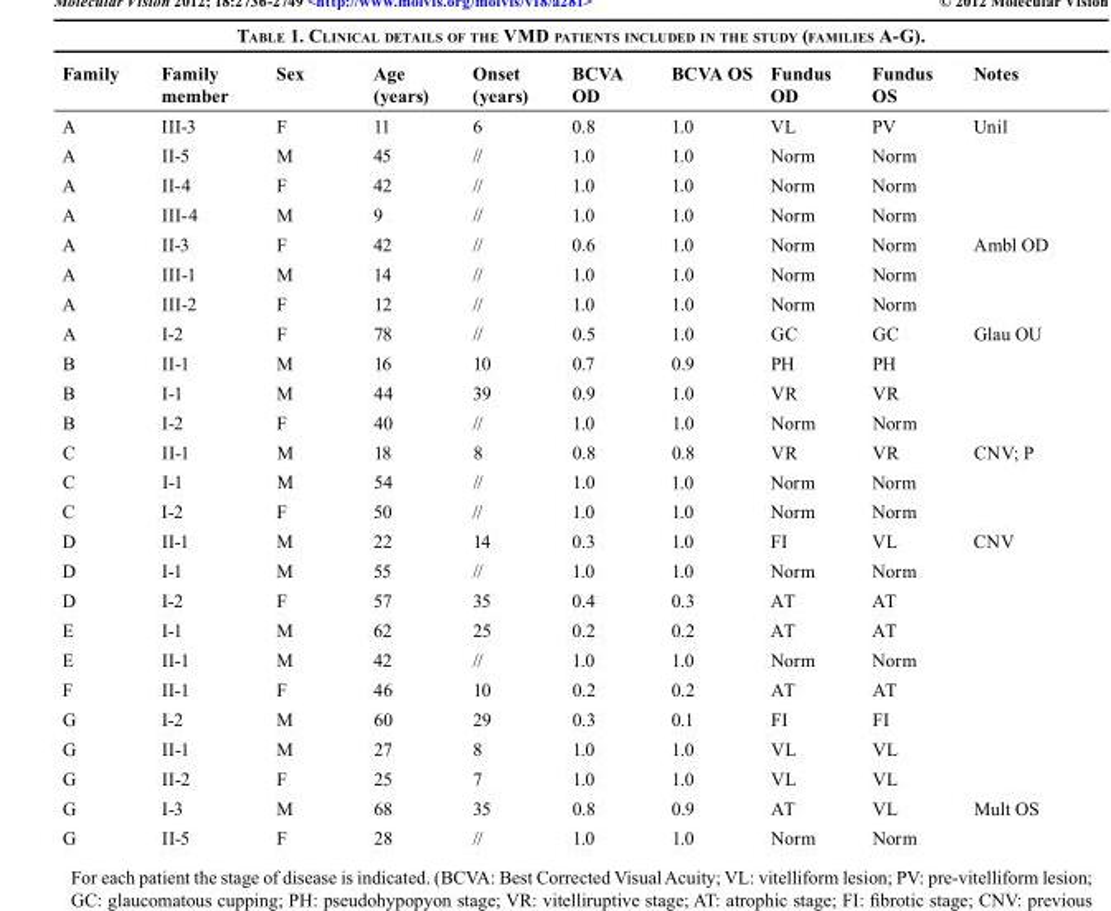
<table><thead><tr><td>Family</td><td>Family member</td><td>Sex</td><td>Age (years)</td><td>Onset (years)</td><td>BCVA OD</td><td>BCVA OS</td><td>Fundus OD</td><td>Fundus OS</td><td>Notes</td></tr></thead><tbody><tr><td>A</td><td>III-3</td><td>F</td><td>11</td><td>6</td><td>0.8</td><td>1.0</td><td>VL</td><td>PV</td><td>Unil</td></tr><tr><td>A</td><td>II-5</td><td>M</td><td>45</td><td>//</td><td>1.0</td><td>1.0</td><td>Norm</td><td>Norm</td><td></td></tr><tr><td>A</td><td>II-4</td><td>F</td><td>42</td><td>//</td><td>1.0</td><td>1.0</td><td>Norm</td><td>Norm</td><td></td></tr><tr><td>A</td><td>III-4</td><td>M</td><td>9</td><td>//</td><td>1.0</td><td>1.0</td><td>Norm</td><td>Norm</td><td></td></tr><tr><td>A</td><td>II-3</td><td>F</td><td>42</td><td>//</td><td>0.6</td><td>1.0</td><td>Norm</td><td>Norm</td><td>Ambl OD</td></tr><tr><td>A</td><td>III-1</td><td>M</td><td>14</td><td>//</td><td>1.0</td><td>1.0</td><td>Norm</td><td>Norm</td><td></td></tr><tr><td>A</td><td>III-2</td><td>F</td><td>12</td><td>//</td><td>1.0</td><td>1.0</td><td>Norm</td><td>Norm</td><td></td></tr><tr><td>A</td><td>I-2</td><td>F</td><td>78</td><td>//</td><td>0.5</td><td>1.0</td><td>GC</td><td>GC</td><td>Glau OU</td></tr><tr><td>B</td><td>II-1</td><td>M</td><td>16</td><td>10</td><td>0.7</td><td>0.9</td><td>PH</td><td>PH</td><td></td></tr><tr><td>B</td><td>I-1</td><td>M</td><td>44</td><td>39</td><td>0.9</td><td>1.0</td><td>VR</td><td>VR</td><td></td></tr><tr><td>B</td><td>I-2</td><td>F</td><td>40</td><td>//</td><td>1.0</td><td>1.0</td><td>Norm</td><td>Norm</td><td></td></tr><tr><td>C</td><td>II-1</td><td>M</td><td>18</td><td>8</td><td>0.8</td><td>0.8</td><td>VR</td><td>VR</td><td>CNV; P</td></tr><tr><td>C</td><td>I-1</td><td>M</td><td>54</td><td>//</td><td>1.0</td><td>1.0</td><td>Norm</td><td>Norm</td><td></td></tr><tr><td>C</td><td>I-2</td><td>F</td><td>50</td><td>//</td><td>1.0</td><td>1.0</td><td>Norm</td><td>Norm</td><td></td></tr><tr><td>D</td><td>II-1</td><td>M</td><td>22</td><td>14</td><td>0.3</td><td>1.0</td><td>FI</td><td>VL</td><td>CNV</td></tr><tr><td>D</td><td>I-1</td><td>M</td><td>55</td><td>//</td><td>1.0</td><td>1.0</td><td>Norm</td><td>Norm</td><td></td></tr><tr><td>D</td><td>I-2</td><td>F</td><td>57</td><td>35</td><td>0.4</td><td>0.3</td><td>AT</td><td>AT</td><td></td></tr><tr><td>E</td><td>I-1</td><td>M</td><td>62</td><td>25</td><td>0.2</td><td>0.2</td><td>AT</td><td>AT</td><td></td></tr><tr><td>E</td><td>II-1</td><td>M</td><td>42</td><td>//</td><td>1.0</td><td>1.0</td><td>Norm</td><td>Norm</td><td></td></tr><tr><td>F</td><td>II-1</td><td>F</td><td>46</td><td>10</td><td>0.2</td><td>0.2</td><td>AT</td><td>AT</td><td></td></tr><tr><td>G</td><td>I-2</td><td>M</td><td>60</td><td>29</td><td>0.3</td><td>0.1</td><td>FI</td><td>FI</td><td></td></tr><tr><td>G</td><td>II-1</td><td>M</td><td>27</td><td>8</td><td>1.0</td><td>1.0</td><td>VL</td><td>VL</td><td></td></tr><tr><td>G</td><td>II-2</td><td>F</td><td>25</td><td>7</td><td>1.0</td><td>1.0</td><td>VL</td><td>VL</td><td></td></tr><tr><td>G</td><td>I-3</td><td>M</td><td>68</td><td>35</td><td>0.8</td><td>0.9</td><td>AT</td><td>VL</td><td>Mult OS</td></tr><tr><td>G</td><td>II-5</td><td>F</td><td>28</td><td>//</td><td>1.0</td><td>1.0</td><td>Norm</td><td>Norm</td><td></td></tr></tbody></table>